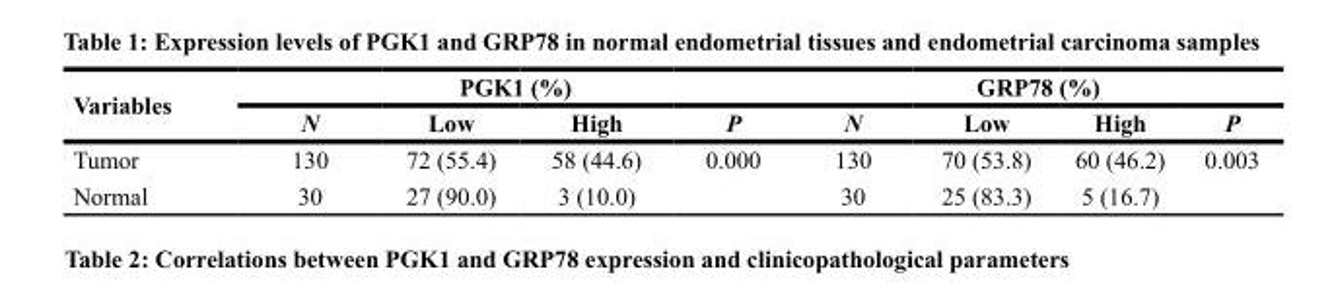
<table><thead><tr><td rowspan="2">Variables</td><td colspan="4">PGK1 (%)</td><td colspan="4">GRP78 (%)</td></tr><tr><td>N</td><td>Low</td><td>High</td><td>P</td><td>N</td><td>Low</td><td>High</td><td>P</td></tr></thead><tbody><tr><td>Tumor</td><td>130</td><td>72 (55.4)</td><td>58 (44.6)</td><td>0.000</td><td>130</td><td>70 (53.8)</td><td>60 (46.2)</td><td>0.003</td></tr><tr><td>Normal</td><td>30</td><td>27 (90.0)</td><td>3 (10.0)</td><td></td><td>30</td><td>25 (83.3)</td><td>5 (16.7)</td><td></td></tr></tbody></table>